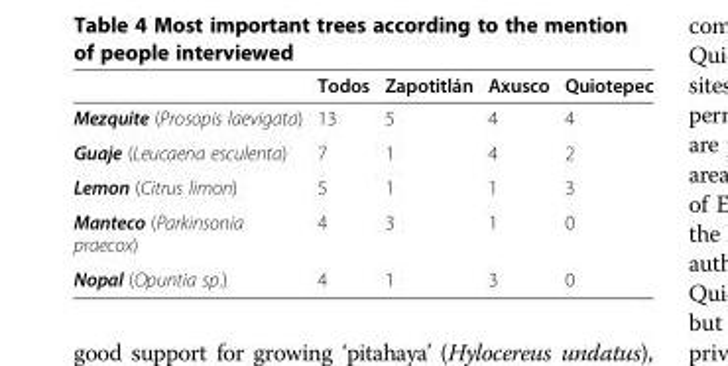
<table><thead><tr><td></td><td>Todos</td><td>Zapotitlán</td><td>Axusco</td><td>Quiotepec</td></tr></thead><tbody><tr><td>Mezquite (Prosopis laevigata)</td><td>13</td><td>5</td><td>4</td><td>4</td></tr><tr><td>Guaje (Leucaena esculenta)</td><td>7</td><td>1</td><td>4</td><td>2</td></tr><tr><td>Lemon (Citrus limon)</td><td>5</td><td>1</td><td>1</td><td>3</td></tr><tr><td>Manteco (Parkinsonia praecox)</td><td>4</td><td>3</td><td>1</td><td>0</td></tr><tr><td>Nopal (Opuntia sp.)</td><td>4</td><td>1</td><td>3</td><td>0</td></tr></tbody></table>